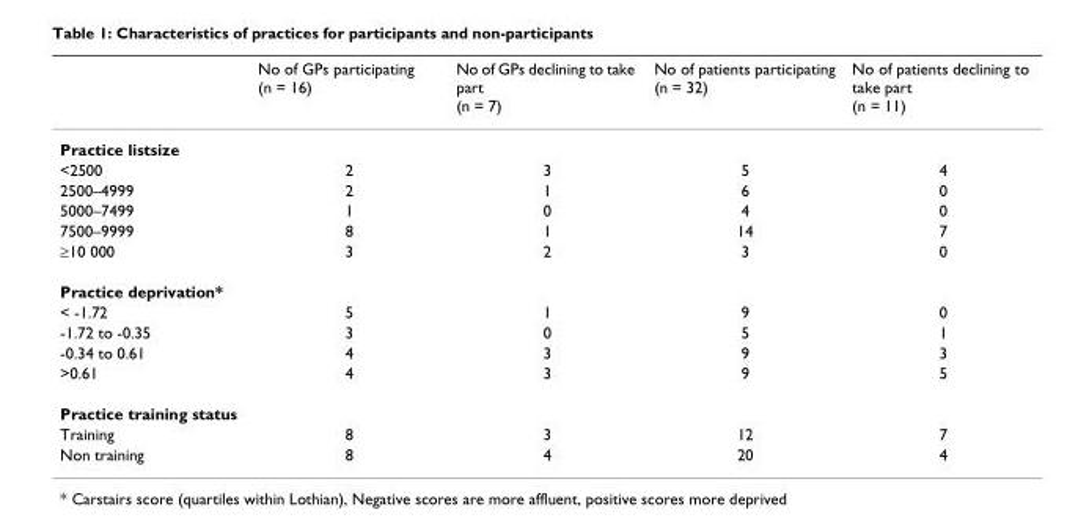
<table><thead><tr><td></td><td>No of GPs participating (n = 16)</td><td>No of GPs declining to take part (n = 7)</td><td>No of patients participating (n = 32)</td><td>No of patients declining to take part (n = 11)</td></tr></thead><tbody><tr><td colspan="5">Practice listsize</td></tr><tr><td>&lt;2500</td><td>2</td><td>3</td><td>5</td><td>4</td></tr><tr><td>2500–4999</td><td>2</td><td>1</td><td>6</td><td>0</td></tr><tr><td>5000–7499</td><td>1</td><td>0</td><td>4</td><td>0</td></tr><tr><td>7500–9999</td><td>8</td><td>1</td><td>14</td><td>7</td></tr><tr><td>≥10 000</td><td>3</td><td>2</td><td>3</td><td>0</td></tr><tr><td colspan="5">Practice deprivation*</td></tr><tr><td>&lt; -1.72</td><td>5</td><td>1</td><td>9</td><td>0</td></tr><tr><td>-1.72 to -0.35</td><td>3</td><td>0</td><td>5</td><td>1</td></tr><tr><td>-0.34 to 0.61</td><td>4</td><td>3</td><td>9</td><td>3</td></tr><tr><td>&gt;0.61</td><td>4</td><td>3</td><td>9</td><td>5</td></tr><tr><td colspan="5">Practice training status</td></tr><tr><td>Training</td><td>8</td><td>3</td><td>12</td><td>7</td></tr><tr><td>Non training</td><td>8</td><td>4</td><td>20</td><td>4</td></tr></tbody></table>